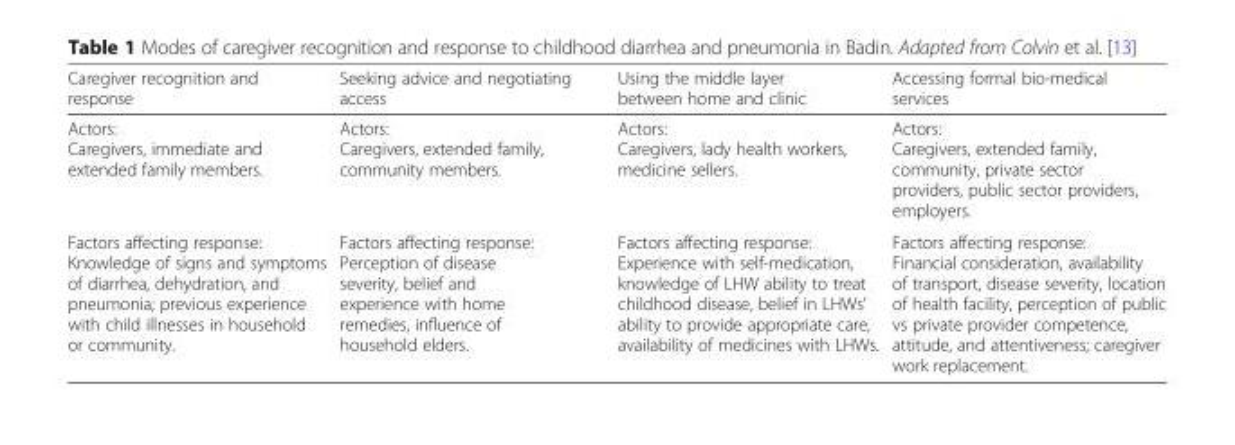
<table><thead><tr><td>Caregiver recognition and response</td><td>Seeking advice and negotiating access</td><td>Using the middle layer between home and clinic</td><td>Accessing formal bio-medical services</td></tr></thead><tbody><tr><td>Actors: Caregivers, immediate and extended family members.</td><td>Actors: Caregivers, extended family, community members.</td><td>Actors: Caregivers, lady health workers, medicine sellers.</td><td>Actors: Caregivers, extended family, community, private sector providers, public sector providers, employers.</td></tr><tr><td>Factors affecting response: Knowledge of signs and symptoms of diarrhea, dehydration, and pneumonia; previous experience with child illnesses in household or community.</td><td>Factors affecting response: Perception of disease severity, belief and experience with home remedies, influence of household elders.</td><td>Factors affecting response: Experience with self-medication, knowledge of LHW ability to treat childhood disease, belief in LHWs’ ability to provide appropriate care, availability of medicines with LHWs.</td><td>Factors affecting response: Financial consideration, availability of transport, disease severity, location of health facility, perception of public vs private provider competence, attitude, and attentiveness; caregiver work replacement.</td></tr></tbody></table>